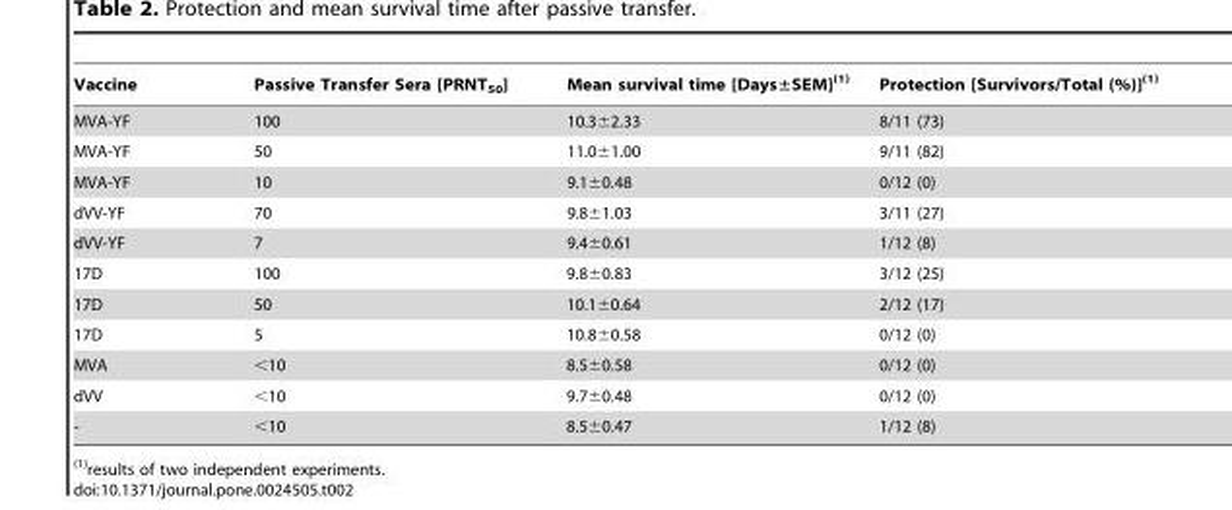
<table><thead><tr><td>Vaccine</td><td>Passive Transfer Sera [PRNT<sub>50</sub>]</td><td>Mean survival time [Days±SEM](1)</td><td>Protection [Survivors/Total (%)](1)</td></tr></thead><tbody><tr><td>MVA-YF</td><td>100</td><td>10.3±2.33</td><td>8/11 (73)</td></tr><tr><td>MVA-YF</td><td>50</td><td>11.0±1.00</td><td>9/11 (82)</td></tr><tr><td>MVA-YF</td><td>10</td><td>9.1±0.48</td><td>0/12 (0)</td></tr><tr><td>dVV-YF</td><td>70</td><td>9.8±1.03</td><td>3/11 (27)</td></tr><tr><td>dVV-YF</td><td>7</td><td>9.4±0.61</td><td>1/12 (8)</td></tr><tr><td>17D</td><td>100</td><td>9.8±0.83</td><td>3/12 (25)</td></tr><tr><td>17D</td><td>50</td><td>10.1±0.64</td><td>2/12 (17)</td></tr><tr><td>17D</td><td>5</td><td>10.8±0.58</td><td>0/12 (0)</td></tr><tr><td>MVA</td><td>&lt;10</td><td>8.5±0.58</td><td>0/12 (0)</td></tr><tr><td>dVV</td><td>&lt;10</td><td>9.7±0.48</td><td>0/12 (0)</td></tr><tr><td>-</td><td>&lt;10</td><td>8.5±0.47</td><td>1/12 (8)</td></tr></tbody></table>